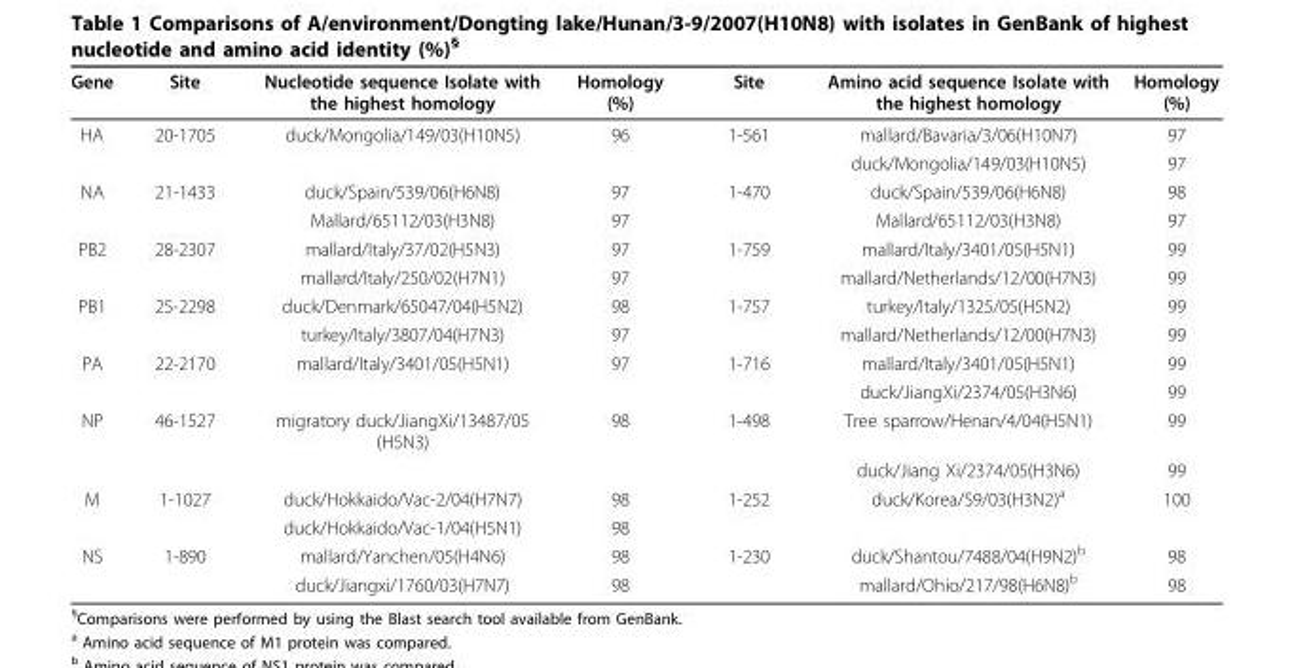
<table><thead><tr><td>Gene</td><td>Site</td><td>Nucleotide sequence Isolate with the highest homology</td><td>Homology (%)</td><td>Site</td><td>Amino acid sequence Isolate with the highest homology</td><td>Homology (%)</td></tr></thead><tbody><tr><td rowspan="2">HA</td><td>20-1705</td><td>duck/Mongolia/149/03(H10N5)</td><td>96</td><td>1-561</td><td>mallard/Bavaria/3/06(H10N7)</td><td>97</td></tr><tr><td></td><td></td><td></td><td></td><td>duck/Mongolia/149/03(H10N5)</td><td>97</td></tr><tr><td rowspan="2">NA</td><td>21-1433</td><td>duck/Spain/539/06(H6N8)</td><td>97</td><td>1-470</td><td>duck/Spain/539/06(H6N8)</td><td>98</td></tr><tr><td></td><td>Mallard/65112/03(H3N8)</td><td>97</td><td></td><td>Mallard/65112/03(H3N8)</td><td>97</td></tr><tr><td rowspan="2">PB2</td><td>28-2307</td><td>mallard/Italy/37/02(H5N3)</td><td>97</td><td>1-759</td><td>mallard/Italy/3401/05(H5N1)</td><td>99</td></tr><tr><td></td><td>mallard/Italy/250/02(H7N1)</td><td>97</td><td></td><td>mallard/Netherlands/12/00(H7N3)</td><td>99</td></tr><tr><td rowspan="2">PB1</td><td>25-2298</td><td>duck/Denmark/65047/04(H5N2)</td><td>98</td><td>1-757</td><td>turkey/Italy/1325/05(H5N2)</td><td>99</td></tr><tr><td></td><td>turkey/Italy/3807/04(H7N3)</td><td>97</td><td></td><td>mallard/Netherlands/12/00(H7N3)</td><td>99</td></tr><tr><td rowspan="2">PA</td><td>22-2170</td><td>mallard/Italy/3401/05(H5N1)</td><td>97</td><td>1-716</td><td>mallard/Italy/3401/05(H5N1)</td><td>99</td></tr><tr><td></td><td></td><td></td><td></td><td>duck/JiangXi/2374/05(H3N6)</td><td>99</td></tr><tr><td rowspan="2">NP</td><td>46-1527</td><td>migratory duck/JiangXi/13487/05 (H5N3)</td><td>98</td><td>1-498</td><td>Tree sparrow/Henan/4/04(H5N1)</td><td>99</td></tr><tr><td></td><td></td><td></td><td></td><td>duck/Jiang Xi/2374/05(H3N6)</td><td>99</td></tr><tr><td rowspan="2">M</td><td>1-1027</td><td>duck/Hokkaido/Vac-2/04(H7N7)</td><td>98</td><td>1-252</td><td>duck/Korea/S9/03(H3N2)<sup>a</sup></td><td>100</td></tr><tr><td></td><td>duck/Hokkaido/Vac-1/04(H5N1)</td><td>98</td><td></td><td></td><td></td></tr><tr><td rowspan="2">NS</td><td>1-890</td><td>mallard/Yanchen/05(H4N6)</td><td>98</td><td>1-230</td><td>duck/Shantou/7488/04(H9N2)<sup>b</sup></td><td>98</td></tr><tr><td></td><td>duck/Jiangxi/1760/03(H7N7)</td><td>98</td><td></td><td>mallard/Ohio/217/98(H6N8)<sup>b</sup></td><td>98</td></tr></tbody></table>